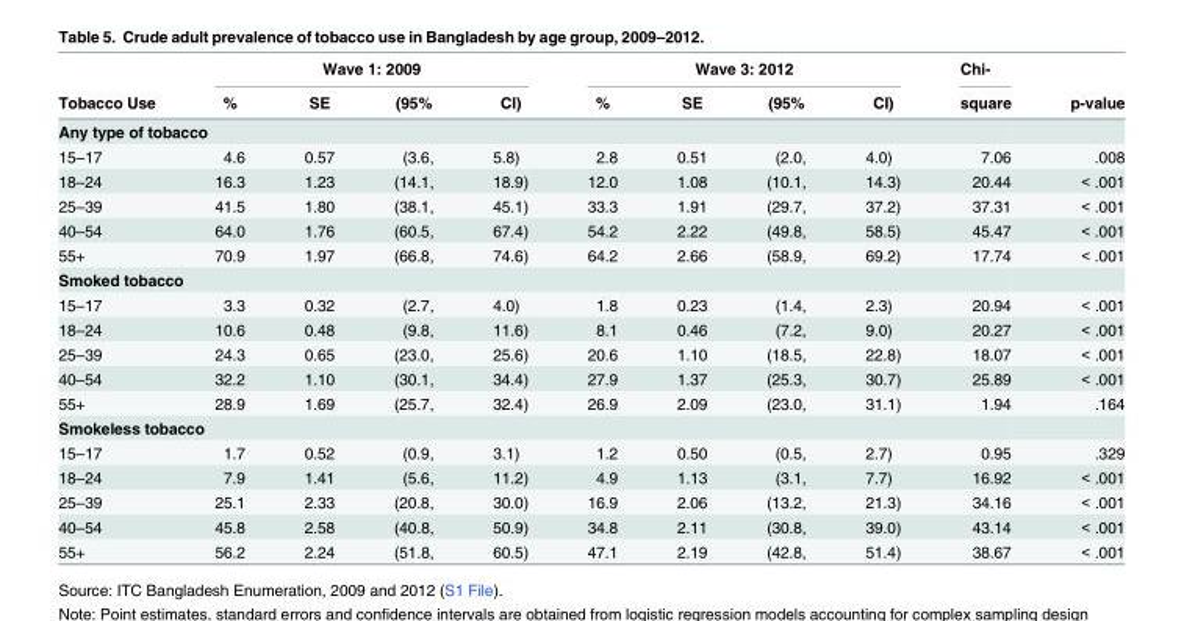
<table><thead><tr><td rowspan="2">Tobacco Use</td><td colspan="4">Wave 1: 2009</td><td colspan="4">Wave 3: 2012</td><td rowspan="2">Chi- square</td><td rowspan="2">p-value</td></tr><tr><td>%</td><td>SE</td><td>(95%</td><td>CI)</td><td>%</td><td>SE</td><td>(95%</td><td>CI)</td></tr></thead><tbody><tr><td colspan="11">Any type of tobacco</td></tr><tr><td>15–17</td><td>4.6</td><td>0.57</td><td>(3.6,</td><td>5.8)</td><td>2.8</td><td>0.51</td><td>(2.0,</td><td>4.0)</td><td>7.06</td><td>.008</td></tr><tr><td>18–24</td><td>16.3</td><td>1.23</td><td>(14.1,</td><td>18.9)</td><td>12.0</td><td>1.08</td><td>(10.1,</td><td>14.3)</td><td>20.44</td><td>&lt; .001</td></tr><tr><td>25–39</td><td>41.5</td><td>1.80</td><td>(38.1,</td><td>45.1)</td><td>33.3</td><td>1.91</td><td>(29.7,</td><td>37.2)</td><td>37.31</td><td>&lt; .001</td></tr><tr><td>40–54</td><td>64.0</td><td>1.76</td><td>(60.5,</td><td>67.4)</td><td>54.2</td><td>2.22</td><td>(49.8,</td><td>58.5)</td><td>45.47</td><td>&lt; .001</td></tr><tr><td>55+</td><td>70.9</td><td>1.97</td><td>(66.8,</td><td>74.6)</td><td>64.2</td><td>2.66</td><td>(58.9,</td><td>69.2)</td><td>17.74</td><td>&lt; .001</td></tr><tr><td colspan="11">Smoked tobacco</td></tr><tr><td>15–17</td><td>3.3</td><td>0.32</td><td>(2.7,</td><td>4.0)</td><td>1.8</td><td>0.23</td><td>(1.4,</td><td>2.3)</td><td>20.94</td><td>&lt; .001</td></tr><tr><td>18–24</td><td>10.6</td><td>0.48</td><td>(9.8,</td><td>11.6)</td><td>8.1</td><td>0.46</td><td>(7.2,</td><td>9.0)</td><td>20.27</td><td>&lt; .001</td></tr><tr><td>25–39</td><td>24.3</td><td>0.65</td><td>(23.0,</td><td>25.6)</td><td>20.6</td><td>1.10</td><td>(18.5,</td><td>22.8)</td><td>18.07</td><td>&lt; .001</td></tr><tr><td>40–54</td><td>32.2</td><td>1.10</td><td>(30.1,</td><td>34.4)</td><td>27.9</td><td>1.37</td><td>(25.3,</td><td>30.7)</td><td>25.89</td><td>&lt; .001</td></tr><tr><td>55+</td><td>28.9</td><td>1.69</td><td>(25.7,</td><td>32.4)</td><td>26.9</td><td>2.09</td><td>(23.0,</td><td>31.1)</td><td>1.94</td><td>.164</td></tr><tr><td colspan="11">Smokeless tobacco</td></tr><tr><td>15–17</td><td>1.7</td><td>0.52</td><td>(0.9,</td><td>3.1)</td><td>1.2</td><td>0.50</td><td>(0.5,</td><td>2.7)</td><td>0.95</td><td>.329</td></tr><tr><td>18–24</td><td>7.9</td><td>1.41</td><td>(5.6,</td><td>11.2)</td><td>4.9</td><td>1.13</td><td>(3.1,</td><td>7.7)</td><td>16.92</td><td>&lt; .001</td></tr><tr><td>25–39</td><td>25.1</td><td>2.33</td><td>(20.8,</td><td>30.0)</td><td>16.9</td><td>2.06</td><td>(13.2,</td><td>21.3)</td><td>34.16</td><td>&lt; .001</td></tr><tr><td>40–54</td><td>45.8</td><td>2.58</td><td>(40.8,</td><td>50.9)</td><td>34.8</td><td>2.11</td><td>(30.8,</td><td>39.0)</td><td>43.14</td><td>&lt; .001</td></tr><tr><td>55+</td><td>56.2</td><td>2.24</td><td>(51.8,</td><td>60.5)</td><td>47.1</td><td>2.19</td><td>(42.8,</td><td>51.4)</td><td>38.67</td><td>&lt; .001</td></tr></tbody></table>